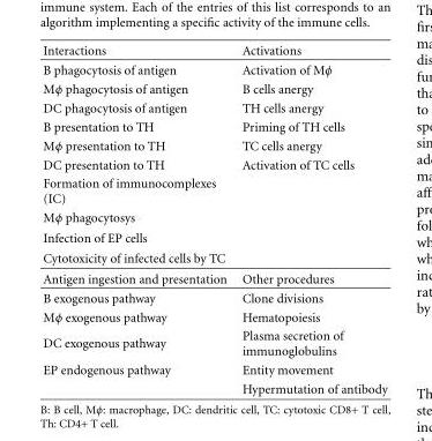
<table><thead><tr><td>Interactions</td><td>Activations</td></tr></thead><tbody><tr><td>B phagocytosis of antigen</td><td>Activation of Mφ</td></tr><tr><td>Mφ phagocytosis of antigen</td><td>B cells anergy</td></tr><tr><td>DC phagocytosis of antigen</td><td>TH cells anergy</td></tr><tr><td>B presentation to TH</td><td>Priming of TH cells</td></tr><tr><td>Mφ presentation to TH</td><td>TC cells anergy</td></tr><tr><td>DC presentation to TH</td><td>Activation of TC cells</td></tr><tr><td colspan="2">Formation of immunocomplexes (IC)</td></tr><tr><td colspan="2">Mφ phagocytosys</td></tr><tr><td colspan="2">Infection of EP cells</td></tr><tr><td colspan="2">Cytotoxicity of infected cells by TC</td></tr><tr><td>Antigen ingestion and presentation</td><td>Other procedures</td></tr><tr><td>B exogenous pathway</td><td>Clone divisions</td></tr><tr><td>Mφ exogenous pathway</td><td>Hematopoiesis</td></tr><tr><td>DC exogenous pathway</td><td>Plasma secretion of immunoglobulins</td></tr><tr><td rowspan="2">EP endogenous pathway</td><td>Entity movement</td></tr><tr><td>Hypermutation of antibody</td></tr></tbody></table>